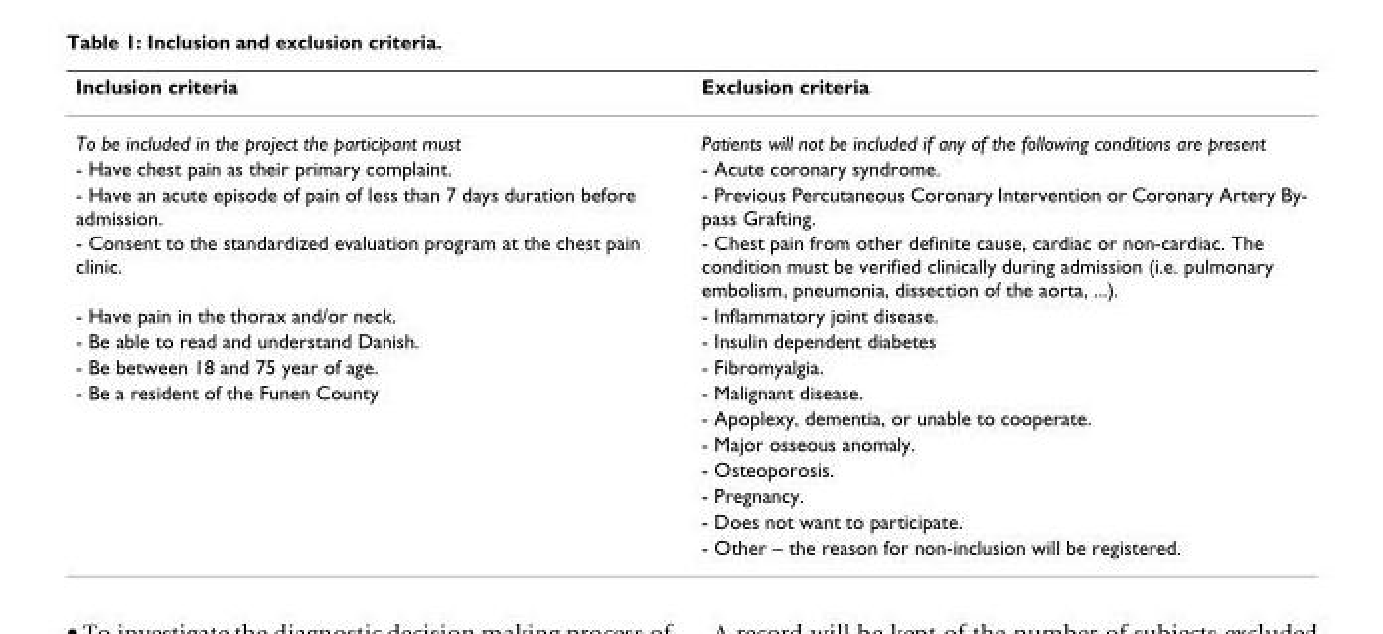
<table><thead><tr><td>Inclusion criteria</td><td>Exclusion criteria</td></tr></thead><tbody><tr><td>To be included in the project the participant must</td><td>Patients will not be included if any of the following conditions are present</td></tr><tr><td>- Have chest pain as their primary complaint.</td><td>- Acute coronary syndrome.</td></tr><tr><td>- Have an acute episode of pain of less than 7 days duration before admission.</td><td>- Previous Percutaneous Coronary Intervention or Coronary Artery By- pass Grafting.</td></tr><tr><td>- Consent to the standardized evaluation program at the chest pain clinic.</td><td>- Chest pain from other definite cause, cardiac or non-cardiac. The condition must be verified clinically during admission (i.e. pulmonary embolism, pneumonia, dissection of the aorta, ...).</td></tr><tr><td>- Have pain in the thorax and/or neck.</td><td>- Inflammatory joint disease.</td></tr><tr><td>- Be able to read and understand Danish.</td><td>- Insulin dependent diabetes</td></tr><tr><td>- Be between 18 and 75 year of age.</td><td>- Fibromyalgia.</td></tr><tr><td rowspan="7">- Be a resident of the Funen County</td><td>- Malignant disease.</td></tr><tr><td>- Apoplexy, dementia, or unable to cooperate.</td></tr><tr><td>- Major osseous anomaly.</td></tr><tr><td>- Osteoporosis.</td></tr><tr><td>- Pregnancy.</td></tr><tr><td>- Does not want to participate.</td></tr><tr><td>- Other – the reason for non-inclusion will be registered.</td></tr></tbody></table>